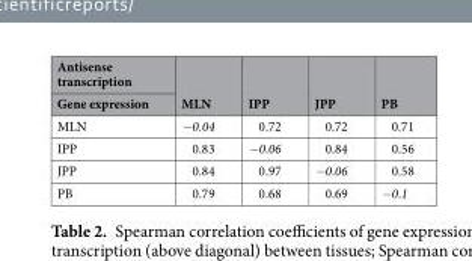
<table><thead><tr><td rowspan="2">Antisense transcription Gene expression</td><td rowspan="2">MLN</td><td rowspan="2">IPP</td><td rowspan="2">JPP</td><td rowspan="2">PB</td></tr><tr></tr></thead><tbody><tr><td>MLN</td><td>−0.04</td><td>0.72</td><td>0.72</td><td>0.71</td></tr><tr><td>IPP</td><td>0.83</td><td>−0.06</td><td>0.84</td><td>0.56</td></tr><tr><td>JPP</td><td>0.84</td><td>0.97</td><td>−0.06</td><td>0.58</td></tr><tr><td>PB</td><td>0.79</td><td>0.68</td><td>0.69</td><td>−0.1</td></tr></tbody></table>